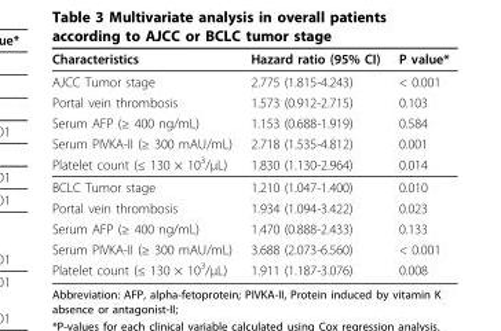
<table><thead><tr><td>Characteristics</td><td>Hazard ratio (95% CI)</td><td>P value*</td></tr></thead><tbody><tr><td>AJCC Tumor stage</td><td>2.775 (1.815-4.243)</td><td>&lt; 0.001</td></tr><tr><td>Portal vein thrombosis</td><td>1.573 (0.912-2.715)</td><td>0.103</td></tr><tr><td>Serum AFP (≥ 400 ng/mL)</td><td>1.153 (0.688-1.919)</td><td>0.584</td></tr><tr><td>Serum PIVKA-II (≥ 300 mAU/mL)</td><td>2.718 (1.535-4.812)</td><td>0.001</td></tr><tr><td>Platelet count (≤ 130 × 10<sup>3</sup>/μL)</td><td>1.830 (1.130-2.964)</td><td>0.014</td></tr><tr><td>BCLC Tumor stage</td><td>1.210 (1.047-1.400)</td><td>0.010</td></tr><tr><td>Portal vein thrombosis</td><td>1.934 (1.094-3.422)</td><td>0.023</td></tr><tr><td>Serum AFP (≥ 400 ng/mL)</td><td>1.470 (0.888-2.433)</td><td>0.133</td></tr><tr><td>Serum PIVKA-II (≥ 300 mAU/mL)</td><td>3.688 (2.073-6.560)</td><td>&lt; 0.001</td></tr><tr><td>Platelet count (≤ 130 × 10<sup>3</sup>/μL)</td><td>1.911 (1.187-3.076)</td><td>0.008</td></tr></tbody></table>